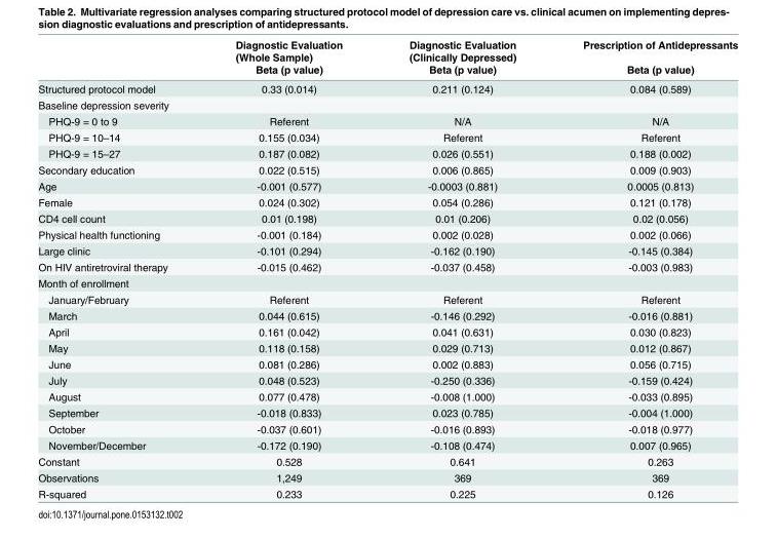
<table><thead><tr><td rowspan="2"></td><td rowspan="2">Diagnostic Evaluation (Whole Sample) Beta (p value)</td><td rowspan="2">Diagnostic Evaluation (Clinically Depressed) Beta (p value)</td><td rowspan="2">Prescription of Antidepressants Beta (p value)</td></tr><tr></tr></thead><tbody><tr><td>Structured protocol model</td><td>0.33 (0.014)</td><td>0.211 (0.124)</td><td>0.084 (0.589)</td></tr><tr><td colspan="4">Baseline depression severity</td></tr><tr><td>PHQ-9 = 0 to 9</td><td>Referent</td><td>N/A</td><td>N/A</td></tr><tr><td>PHQ-9 = 10–14</td><td>0.155 (0.034)</td><td>Referent</td><td>Referent</td></tr><tr><td>PHQ-9 = 15–27</td><td>0.187 (0.082)</td><td>0.026 (0.551)</td><td>0.188 (0.002)</td></tr><tr><td>Secondary education</td><td>0.022 (0.515)</td><td>0.006 (0.865)</td><td>0.009 (0.903)</td></tr><tr><td>Age</td><td>-0.001 (0.577)</td><td>-0.0003 (0.881)</td><td>0.0005 (0.813)</td></tr><tr><td>Female</td><td>0.024 (0.302)</td><td>0.054 (0.286)</td><td>0.121 (0.178)</td></tr><tr><td>CD4 cell count</td><td>0.01 (0.198)</td><td>0.01 (0.206)</td><td>0.02 (0.056)</td></tr><tr><td>Physical health functioning</td><td>-0.001 (0.184)</td><td>0.002 (0.028)</td><td>0.002 (0.066)</td></tr><tr><td>Large clinic</td><td>-0.101 (0.294)</td><td>-0.162 (0.190)</td><td>-0.145 (0.384)</td></tr><tr><td>On HIV antiretroviral therapy</td><td>-0.015 (0.462)</td><td>-0.037 (0.458)</td><td>-0.003 (0.983)</td></tr><tr><td colspan="4">Month of enrollment</td></tr><tr><td>January/February</td><td>Referent</td><td>Referent</td><td>Referent</td></tr><tr><td>March</td><td>0.044 (0.615)</td><td>-0.146 (0.292)</td><td>-0.016 (0.881)</td></tr><tr><td>April</td><td>0.161 (0.042)</td><td>0.041 (0.631)</td><td>0.030 (0.823)</td></tr><tr><td>May</td><td>0.118 (0.158)</td><td>0.029 (0.713)</td><td>0.012 (0.867)</td></tr><tr><td>June</td><td>0.081 (0.286)</td><td>0.002 (0.883)</td><td>0.056 (0.715)</td></tr><tr><td>July</td><td>0.048 (0.523)</td><td>-0.250 (0.336)</td><td>-0.159 (0.424)</td></tr><tr><td>August</td><td>0.077 (0.478)</td><td>-0.008 (1.000)</td><td>-0.033 (0.895)</td></tr><tr><td>September</td><td>-0.018 (0.833)</td><td>0.023 (0.785)</td><td>-0.004 (1.000)</td></tr><tr><td>October</td><td>-0.037 (0.601)</td><td>-0.016 (0.893)</td><td>-0.018 (0.977)</td></tr><tr><td>November/December</td><td>-0.172 (0.190)</td><td>-0.108 (0.474)</td><td>0.007 (0.965)</td></tr><tr><td>Constant</td><td>0.528</td><td>0.641</td><td>0.263</td></tr><tr><td>Observations</td><td>1,249</td><td>369</td><td>369</td></tr><tr><td>R-squared</td><td>0.233</td><td>0.225</td><td>0.126</td></tr></tbody></table>